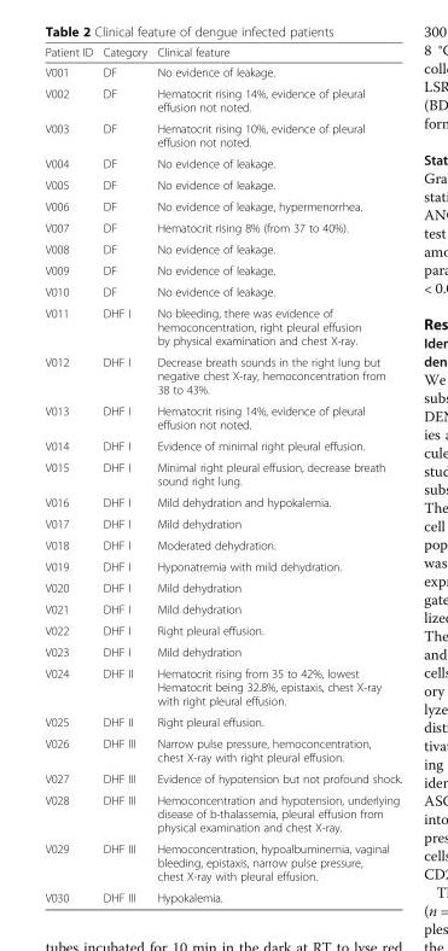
<table><thead><tr><td>Patient ID</td><td>Category</td><td>Clinical feature</td></tr></thead><tbody><tr><td>V001</td><td>DF</td><td>No evidence of leakage.</td></tr><tr><td>V002</td><td>DF</td><td>Hematocrit rising 14%, evidence of pleural effusion not noted.</td></tr><tr><td>V003</td><td>DF</td><td>Hematocrit rising 10%, evidence of pleural effusion not noted.</td></tr><tr><td>V004</td><td>DF</td><td>No evidence of leakage.</td></tr><tr><td>V005</td><td>DF</td><td>No evidence of leakage.</td></tr><tr><td>V006</td><td>DF</td><td>No evidence of leakage, hypermenorrhea.</td></tr><tr><td>V007</td><td>DF</td><td>Hematocrit rising 8% (from 37 to 40%).</td></tr><tr><td>V008</td><td>DF</td><td>No evidence of leakage.</td></tr><tr><td>V009</td><td>DF</td><td>No evidence of leakage.</td></tr><tr><td>V010</td><td>DF</td><td>No evidence of leakage.</td></tr><tr><td>V011</td><td>DHF I</td><td>No bleeding, there was evidence of hemoconcentration, right pleural effusion by physical examination and chest X-ray.</td></tr><tr><td>V012</td><td>DHF I</td><td>Decrease breath sounds in the right lung but negative chest X-ray, hemoconcentration from 38 to 43%.</td></tr><tr><td>V013</td><td>DHF I</td><td>Hematocrit rising 14%, evidence of pleural effusion not noted.</td></tr><tr><td>V014</td><td>DHF I</td><td>Evidence of minimal right pleural effusion.</td></tr><tr><td>V015</td><td>DHF I</td><td>Minimal right pleural effusion, decrease breath sound right lung.</td></tr><tr><td>V016</td><td>DHF I</td><td>Mild dehydration and hypokalemia.</td></tr><tr><td>V017</td><td>DHF I</td><td>Mild dehydration</td></tr><tr><td>V018</td><td>DHF I</td><td>Moderated dehydration.</td></tr><tr><td>V019</td><td>DHF I</td><td>Hyponatremia with mild dehydration.</td></tr><tr><td>V020</td><td>DHF I</td><td>Mild dehydration</td></tr><tr><td>V021</td><td>DHF I</td><td>Mild dehydration</td></tr><tr><td>V022</td><td>DHF I</td><td>Right pleural effusion.</td></tr><tr><td>V023</td><td>DHF I</td><td>Mild dehydration</td></tr><tr><td>V024</td><td>DHF II</td><td>Hematocrit rising from 35 to 42%, lowest Hematocrit being 32.8%, epistaxis, chest X-ray with right pleural effusion.</td></tr><tr><td>V025</td><td>DHF II</td><td>Right pleural effusion.</td></tr><tr><td>V026</td><td>DHF III</td><td>Narrow pulse pressure, hemoconcentration, chest X-ray with right pleural effusion.</td></tr><tr><td>V027</td><td>DHF III</td><td>Evidence of hypotension but not profound shock.</td></tr><tr><td>V028</td><td>DHF III</td><td>Hemoconcentration and hypotension, underlying disease of b-thalassemia, pleural effusion from physical examination and chest X-ray.</td></tr><tr><td>V029</td><td>DHF III</td><td>Hemoconcentration, hypoalbuminemia, vaginal bleeding, epistaxis, narrow pulse pressure, chest X-ray with pleural effusion.</td></tr><tr><td>V030</td><td>DHF III</td><td>Hypokalemia.</td></tr></tbody></table>